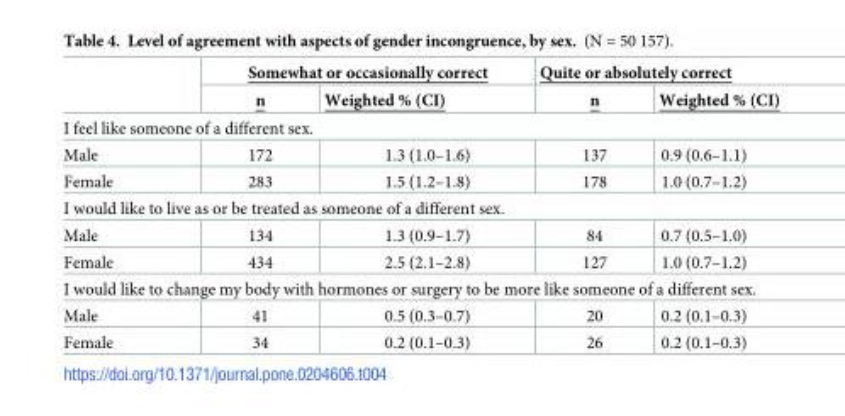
<table><thead><tr><td rowspan="2"></td><td colspan="2">Somewhat or occasionally correct</td><td colspan="2">Quite or absolutely correct</td></tr><tr><td>n</td><td>Weighted % (CI)</td><td>n</td><td>Weighted % (CI)</td></tr></thead><tbody><tr><td colspan="5">I feel like someone of a different sex.</td></tr><tr><td>Male</td><td>172</td><td>1.3 (1.0–1.6)</td><td>137</td><td>0.9 (0.6–1.1)</td></tr><tr><td>Female</td><td>283</td><td>1.5 (1.2–1.8)</td><td>178</td><td>1.0 (0.7–1.2)</td></tr><tr><td colspan="5">I would like to live as or be treated as someone of a different sex.</td></tr><tr><td>Male</td><td>134</td><td>1.3 (0.9–1.7)</td><td>84</td><td>0.7 (0.5–1.0)</td></tr><tr><td>Female</td><td>434</td><td>2.5 (2.1–2.8)</td><td>127</td><td>1.0 (0.7–1.2)</td></tr><tr><td colspan="5">I would like to change my body with hormones or surgery to be more like someone of a different sex.</td></tr><tr><td>Male</td><td>41</td><td>0.5 (0.3–0.7)</td><td>20</td><td>0.2 (0.1–0.3)</td></tr><tr><td>Female</td><td>34</td><td>0.2 (0.1–0.3)</td><td>26</td><td>0.2 (0.1–0.3)</td></tr></tbody></table>